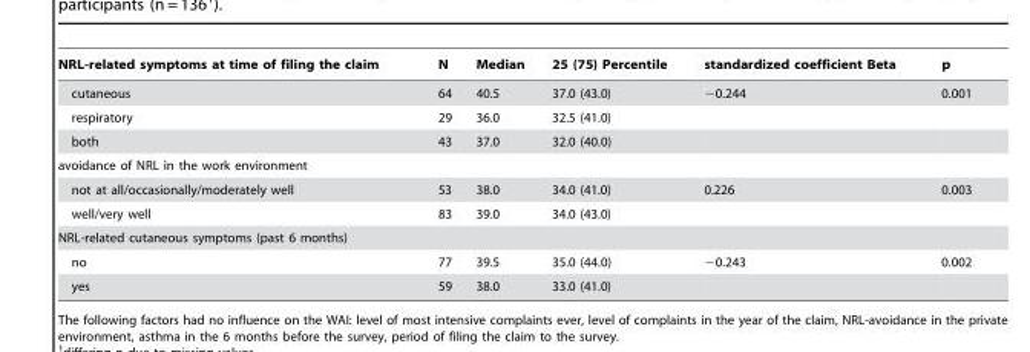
<table><thead><tr><td>NRL-related symptoms at time of filing the claim</td><td>N</td><td>Median</td><td>25 (75) Percentile</td><td>standardized coefficient Beta</td><td>p</td></tr></thead><tbody><tr><td>cutaneous</td><td>64</td><td>40.5</td><td>37.0 (43.0)</td><td>−0.244</td><td>0.001</td></tr><tr><td>respiratory</td><td>29</td><td>36.0</td><td>32.5 (41.0)</td><td></td><td></td></tr><tr><td>both</td><td>43</td><td>37.0</td><td>32.0 (40.0)</td><td></td><td></td></tr><tr><td colspan="6">avoidance of NRL in the work environment</td></tr><tr><td>not at all/occasionally/moderately well</td><td>53</td><td>38.0</td><td>34.0 (41.0)</td><td>0.226</td><td>0.003</td></tr><tr><td>well/very well</td><td>83</td><td>39.0</td><td>34.0 (43.0)</td><td></td><td></td></tr><tr><td colspan="6">NRL-related cutaneous symptoms (past 6 months)</td></tr><tr><td>no</td><td>77</td><td>39.5</td><td>35.0 (44.0)</td><td>−0.243</td><td>0.002</td></tr><tr><td>yes</td><td>59</td><td>38.0</td><td>33.0 (41.0)</td><td></td><td></td></tr></tbody></table>